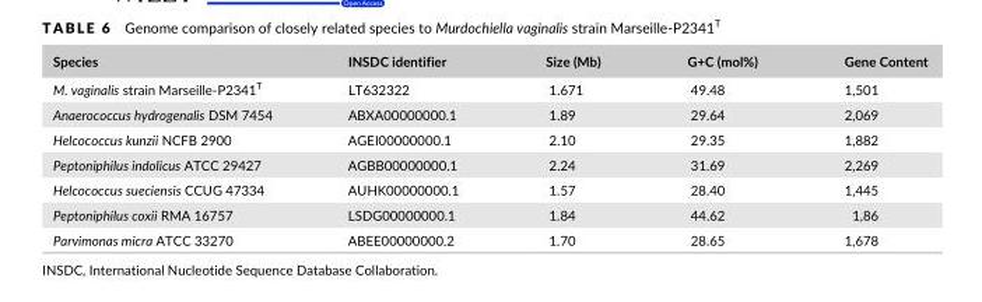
<table><thead><tr><td>Species</td><td>INSDC identifier</td><td>Size (Mb)</td><td>G+C (mol%)</td><td>Gene Content</td></tr></thead><tbody><tr><td>M. vaginalis strain Marseille- P2341<sup>T</sup></td><td>LT632322</td><td>1.671</td><td>49.48</td><td>1,501</td></tr><tr><td>Anaerococcus hydrogenalis DSM 7454</td><td>ABXA00000000.1</td><td>1.89</td><td>29.64</td><td>2,069</td></tr><tr><td>Helcococcus kunzii NCFB 2900</td><td>AGEI00000000.1</td><td>2.10</td><td>29.35</td><td>1,882</td></tr><tr><td>Peptoniphilus indolicus ATCC 29427</td><td>AGBB00000000.1</td><td>2.24</td><td>31.69</td><td>2,269</td></tr><tr><td>Helcococcus sueciensis CCUG 47334</td><td>AUHK00000000.1</td><td>1.57</td><td>28.40</td><td>1,445</td></tr><tr><td>Peptoniphilus coxii RMA 16757</td><td>LSDG00000000.1</td><td>1.84</td><td>44.62</td><td>1,86</td></tr><tr><td>Parvimonas micra ATCC 33270</td><td>ABEE00000000.2</td><td>1.70</td><td>28.65</td><td>1,678</td></tr></tbody></table>